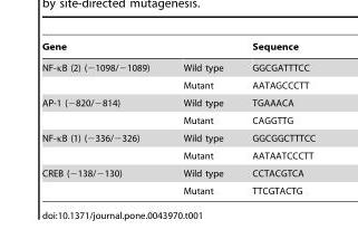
<table><thead><tr><td>Gene</td><td></td><td>Sequence</td></tr></thead><tbody><tr><td rowspan="2">NF-κB (2) (−1098/−1089)</td><td>Wild type</td><td>GGCGATTTCC</td></tr><tr><td>Mutant</td><td>AATAGCCCTT</td></tr><tr><td rowspan="2">AP-1 (−820/−814)</td><td>Wild type</td><td>TGAAACA</td></tr><tr><td>Mutant</td><td>CAGGTTG</td></tr><tr><td rowspan="2">NF-κB (1) (−336/−326)</td><td>Wild type</td><td>GGCGGCTTTCC</td></tr><tr><td>Mutant</td><td>AATAATCCCTT</td></tr><tr><td rowspan="2">CREB (−138/−130)</td><td>Wild type</td><td>CCTACGTCA</td></tr><tr><td>Mutant</td><td>TTCGTACTG</td></tr></tbody></table>